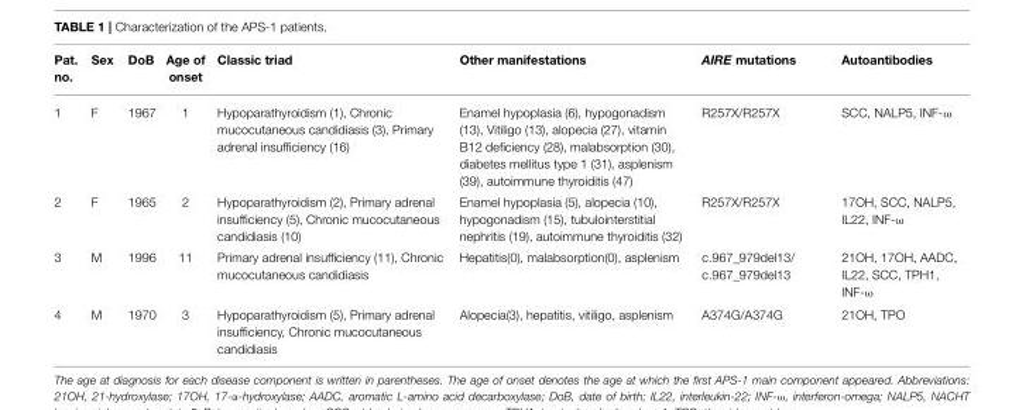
<table><thead><tr><td>Pat. no.</td><td>Sex</td><td>DoB</td><td>Age of onset</td><td>Classic triad</td><td>Other manifestations</td><td>AIRE mutations</td><td>Autoantibodies</td></tr></thead><tbody><tr><td>1</td><td>F</td><td>1967</td><td>1</td><td>Hypoparathyroidism (1), Chronic mucocutaneous candidiasis (3), Primary adrenal insufficiency (16)</td><td>Enamel hypoplasia (6), hypogonadism (13), Vitiligo (13), alopecia (27), vitamin B12 deficiency (28), malabsorption (30), diabetes mellitus type 1 (31), asplenism (39), autoimmune thyroiditis (47)</td><td>R257X/R257X</td><td>SCC, NALP5, INF-ω</td></tr><tr><td>2</td><td>F</td><td>1965</td><td>2</td><td>Hypoparathyroidism (2), Primary adrenal insufficiency (5), Chronic mucocutaneous candidiasis (10)</td><td>Enamel hypoplasia (5), alopecia (10), hypogonadism (15), tubulointerstitial nephritis (19), autoimmune thyroiditis (32)</td><td>R257X/R257X</td><td>17OH, SCC, NALP5, IL22, INF-ω</td></tr><tr><td>3</td><td>M</td><td>1996</td><td>11</td><td>Primary adrenal insufficiency (11), Chronic mucocutaneous candidiasis</td><td>Hepatitis(0), malabsorption(0), asplenism</td><td>c.967_979del13/ c.967_979del13</td><td>21OH, 17OH, AADC, IL22, SCC, TPH1, INF-ω</td></tr><tr><td>4</td><td>M</td><td>1970</td><td>3</td><td>Hypoparathyroidism (5), Primary adrenal insufficiency, Chronic mucocutaneous candidiasis</td><td>Alopecia(3), hepatitis, vitiligo, asplenism</td><td>A374G/A374G</td><td>21OH, TPO</td></tr></tbody></table>